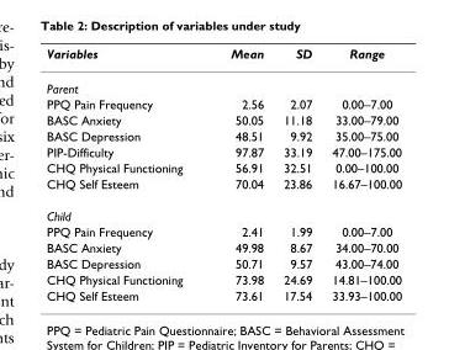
<table><thead><tr><td>Variables</td><td>Mean</td><td>SD</td><td>Range</td></tr></thead><tbody><tr><td colspan="4">Parent</td></tr><tr><td>PPQ Pain Frequency</td><td>2.56</td><td>2.07</td><td>0.00–7.00</td></tr><tr><td>BASC Anxiety</td><td>50.05</td><td>11.18</td><td>33.00–79.00</td></tr><tr><td>BASC Depression</td><td>48.51</td><td>9.92</td><td>35.00–75.00</td></tr><tr><td>PIP-Difficulty</td><td>97.87</td><td>33.19</td><td>47.00–175.00</td></tr><tr><td>CHQ Physical Functioning</td><td>56.91</td><td>32.51</td><td>0.00–100.00</td></tr><tr><td>CHQ Self Esteem</td><td>70.04</td><td>23.86</td><td>16.67–100.00</td></tr><tr><td colspan="4">Child</td></tr><tr><td>PPQ Pain Frequency</td><td>2.41</td><td>1.99</td><td>0.00–7.00</td></tr><tr><td>BASC Anxiety</td><td>49.98</td><td>8.67</td><td>34.00–70.00</td></tr><tr><td>BASC Depression</td><td>50.71</td><td>9.57</td><td>43.00–74.00</td></tr><tr><td>CHQ Physical Functioning</td><td>73.98</td><td>24.69</td><td>14.81–100.00</td></tr><tr><td>CHQ Self Esteem</td><td>73.61</td><td>17.54</td><td>33.93–100.00</td></tr></tbody></table>